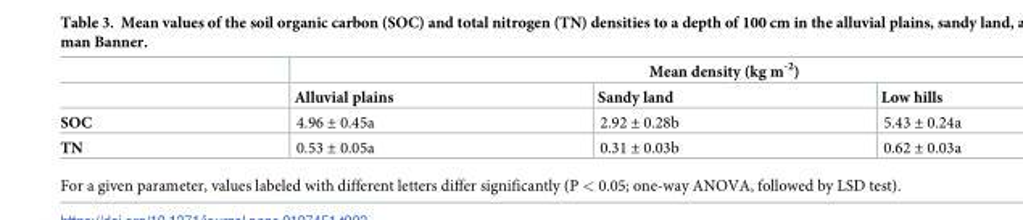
<table><thead><tr><td rowspan="2"></td><td colspan="3">Mean density (kg m<sup>-2</sup>)</td></tr><tr><td>Alluvial plains</td><td>Sandy land</td><td>Low hills</td></tr></thead><tbody><tr><td>SOC</td><td>4.96 ± 0.45a</td><td>2.92 ± 0.28b</td><td>5.43 ± 0.24a</td></tr><tr><td>TN</td><td>0.53 ± 0.05a</td><td>0.31 ± 0.03b</td><td>0.62 ± 0.03a</td></tr></tbody></table>